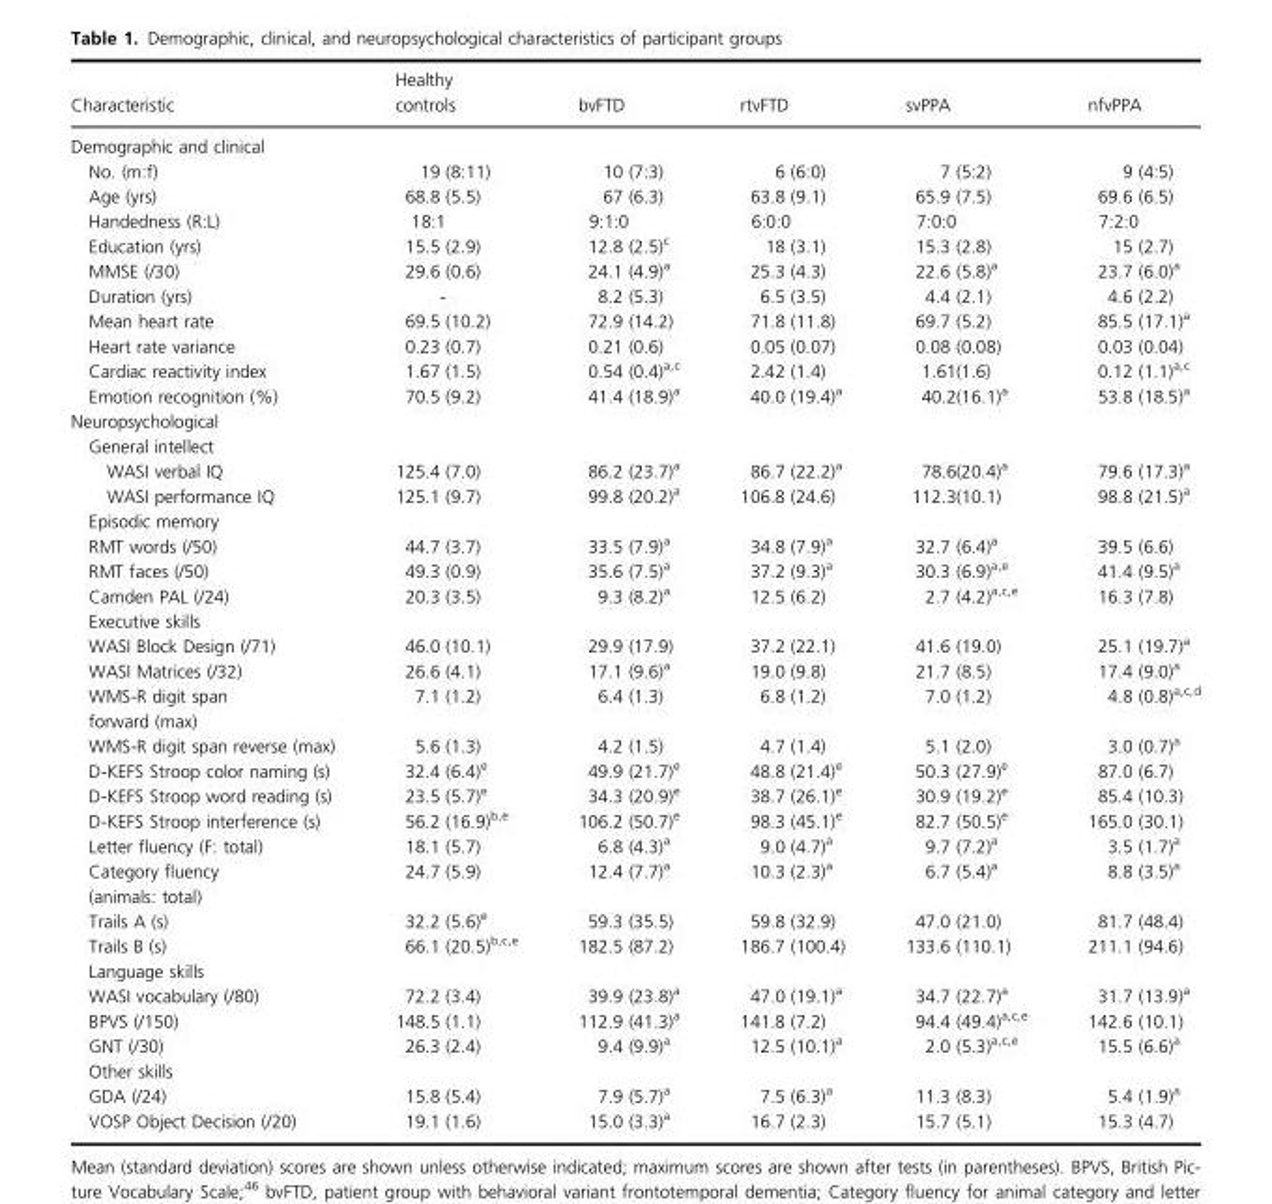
<table><thead><tr><td>Characteristic</td><td>Healthy controls</td><td>bvFTD</td><td>rtvFTD</td><td>svPPA</td><td>nfvPPA</td></tr></thead><tbody><tr><td colspan="6">Demographic and clinical</td></tr><tr><td>No. (m:f)</td><td>19 (8:11)</td><td>10 (7:3)</td><td>6 (6:0)</td><td>7 (5:2)</td><td>9 (4:5)</td></tr><tr><td>Age (yrs)</td><td>68.8 (5.5)</td><td>67 (6.3)</td><td>63.8 (9.1)</td><td>65.9 (7.5)</td><td>69.6 (6.5)</td></tr><tr><td>Handedness (R:L)</td><td>18:1</td><td>9:1:0</td><td>6:0:0</td><td>7:0:0</td><td>7:2:0</td></tr><tr><td>Education (yrs)</td><td>15.5 (2.9)</td><td>12.8 (2.5)<sup>c</sup></td><td>18 (3.1)</td><td>15.3 (2.8)</td><td>15 (2.7)</td></tr><tr><td>MMSE (/30)</td><td>29.6 (0.6)</td><td>24.1 (4.9)<sup>a</sup></td><td>25.3 (4.3)</td><td>22.6 (5.8)<sup>a</sup></td><td>23.7 (6.0)<sup>a</sup></td></tr><tr><td>Duration (yrs)</td><td>-</td><td>8.2 (5.3)</td><td>6.5 (3.5)</td><td>4.4 (2.1)</td><td>4.6 (2.2)</td></tr><tr><td>Mean heart rate</td><td>69.5 (10.2)</td><td>72.9 (14.2)</td><td>71.8 (11.8)</td><td>69.7 (5.2)</td><td>85.5 (17.1)<sup>a</sup></td></tr><tr><td>Heart rate variance</td><td>0.23 (0.7)</td><td>0.21 (0.6)</td><td>0.05 (0.07)</td><td>0.08 (0.08)</td><td>0.03 (0.04)</td></tr><tr><td>Cardiac reactivity index</td><td>1.67 (1.5)</td><td>0.54 (0.4)<sup>a,</sup>c</td><td>2.42 (1.4)</td><td>1.61(1.6)</td><td>0.12 (1.1)<sup>a,</sup>c</td></tr><tr><td>Emotion recognition (%)</td><td>70.5 (9.2)</td><td>41.4 (18.9)<sup>a</sup></td><td>40.0 (19.4)<sup>a</sup></td><td>40.2(16.1)<sup>a</sup></td><td>53.8 (18.5)<sup>a</sup></td></tr><tr><td colspan="6">Neuropsychological</td></tr><tr><td colspan="6">General intellect</td></tr><tr><td>WASI verbal IQ</td><td>125.4 (7.0)</td><td>86.2 (23.7)<sup>a</sup></td><td>86.7 (22.2)<sup>a</sup></td><td>78.6(20.4)<sup>a</sup></td><td>79.6 (17.3)<sup>a</sup></td></tr><tr><td>WASI performance IQ</td><td>125.1 (9.7)</td><td>99.8 (20.2)<sup>a</sup></td><td>106.8 (24.6)</td><td>112.3(10.1)</td><td>98.8 (21.5)<sup>a</sup></td></tr><tr><td colspan="6">Episodic memory</td></tr><tr><td>RMT words (/50)</td><td>44.7 (3.7)</td><td>33.5 (7.9)<sup>a</sup></td><td>34.8 (7.9)<sup>a</sup></td><td>32.7 (6.4)<sup>a</sup></td><td>39.5 (6.6)</td></tr><tr><td>RMT faces (/50)</td><td>49.3 (0.9)</td><td>35.6 (7.5)<sup>a</sup></td><td>37.2 (9.3)<sup>a</sup></td><td>30.3 (6.9)<sup>a,</sup>e</td><td>41.4 (9.5)<sup>a</sup></td></tr><tr><td>Camden PAL (/24)</td><td>20.3 (3.5)</td><td>9.3 (8.2)<sup>a</sup></td><td>12.5 (6.2)</td><td>2.7 (4.2)<sup>a,</sup>c<sup>,</sup>e</td><td>16.3 (7.8)</td></tr><tr><td colspan="6">Executive skills</td></tr><tr><td>WASI Block Design (/71)</td><td>46.0 (10.1)</td><td>29.9 (17.9)</td><td>37.2 (22.1)</td><td>41.6 (19.0)</td><td>25.1 (19.7)<sup>a</sup></td></tr><tr><td>WASI Matrices (/32)</td><td>26.6 (4.1)</td><td>17.1 (9.6)<sup>a</sup></td><td>19.0 (9.8)</td><td>21.7 (8.5)</td><td>17.4 (9.0)<sup>a</sup></td></tr><tr><td>WMS-R digit span forward (max)</td><td>7.1 (1.2)</td><td>6.4 (1.3)</td><td>6.8 (1.2)</td><td>7.0 (1.2)</td><td>4.8 (0.8)<sup>a,</sup>c<sup>,</sup>d</td></tr><tr><td>WMS-R digit span reverse (max)</td><td>5.6 (1.3)</td><td>4.2 (1.5)</td><td>4.7 (1.4)</td><td>5.1 (2.0)</td><td>3.0 (0.7)<sup>a</sup></td></tr><tr><td>D-KEFS Stroop color naming (s)</td><td>32.4 (6.4)<sup>e</sup></td><td>49.9 (21.7)<sup>e</sup></td><td>48.8 (21.4)<sup>e</sup></td><td>50.3 (27.9)<sup>e</sup></td><td>87.0 (6.7)</td></tr><tr><td>D-KEFS Stroop word reading (s)</td><td>23.5 (5.7)<sup>e</sup></td><td>34.3 (20.9)<sup>e</sup></td><td>38.7 (26.1)<sup>e</sup></td><td>30.9 (19.2)<sup>e</sup></td><td>85.4 (10.3)</td></tr><tr><td>D-KEFS Stroop interference (s)</td><td>56.2 (16.9)<sup>b,</sup>e</td><td>106.2 (50.7)<sup>e</sup></td><td>98.3 (45.1)<sup>e</sup></td><td>82.7 (50.5)<sup>e</sup></td><td>165.0 (30.1)</td></tr><tr><td>Letter fluency (F: total)</td><td>18.1 (5.7)</td><td>6.8 (4.3)<sup>a</sup></td><td>9.0 (4.7)<sup>a</sup></td><td>9.7 (7.2)<sup>a</sup></td><td>3.5 (1.7)<sup>a</sup></td></tr><tr><td>Category fluency (animals: total)</td><td>24.7 (5.9)</td><td>12.4 (7.7)<sup>a</sup></td><td>10.3 (2.3)<sup>a</sup></td><td>6.7 (5.4)<sup>a</sup></td><td>8.8 (3.5)<sup>a</sup></td></tr><tr><td>Trails A (s)</td><td>32.2 (5.6)<sup>e</sup></td><td>59.3 (35.5)</td><td>59.8 (32.9)</td><td>47.0 (21.0)</td><td>81.7 (48.4)</td></tr><tr><td>Trails B (s)</td><td>66.1 (20.5)<sup>b,</sup>c<sup>,</sup>e</td><td>182.5 (87.2)</td><td>186.7 (100.4)</td><td>133.6 (110.1)</td><td>211.1 (94.6)</td></tr><tr><td colspan="6">Language skills</td></tr><tr><td>WASI vocabulary (/80)</td><td>72.2 (3.4)</td><td>39.9 (23.8)<sup>a</sup></td><td>47.0 (19.1)<sup>a</sup></td><td>34.7 (22.7)<sup>a</sup></td><td>31.7 (13.9)<sup>a</sup></td></tr><tr><td>BPVS (/150)</td><td>148.5 (1.1)</td><td>112.9 (41.3)<sup>a</sup></td><td>141.8 (7.2)</td><td>94.4 (49.4)<sup>a,</sup>c<sup>,</sup>e</td><td>142.6 (10.1)</td></tr><tr><td>GNT (/30)</td><td>26.3 (2.4)</td><td>9.4 (9.9)<sup>a</sup></td><td>12.5 (10.1)<sup>a</sup></td><td>2.0 (5.3)<sup>a,</sup>c<sup>,</sup>e</td><td>15.5 (6.6)<sup>a</sup></td></tr><tr><td colspan="6">Other skills</td></tr><tr><td>GDA (/24)</td><td>15.8 (5.4)</td><td>7.9 (5.7)<sup>a</sup></td><td>7.5 (6.3)<sup>a</sup></td><td>11.3 (8.3)</td><td>5.4 (1.9)<sup>a</sup></td></tr><tr><td>VOSP Object Decision (/20)</td><td>19.1 (1.6)</td><td>15.0 (3.3)<sup>a</sup></td><td>16.7 (2.3)</td><td>15.7 (5.1)</td><td>15.3 (4.7)</td></tr></tbody></table>